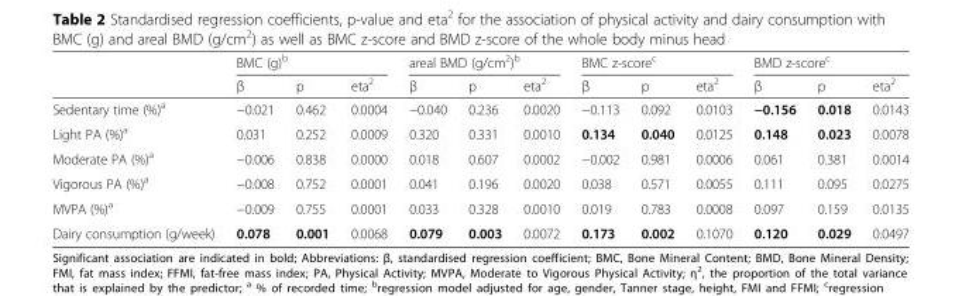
<table><thead><tr><td rowspan="2"></td><td colspan="3">BMC (g)<sup>b</sup></td><td colspan="3">areal BMD (g/cm<sup>2</sup>)<sup>b</sup></td><td colspan="3">BMC z-score<sup>c</sup></td><td colspan="3">BMD z-score<sup>c</sup></td></tr><tr><td>β</td><td>p</td><td>eta<sup>2</sup></td><td>β</td><td>p</td><td>eta<sup>2</sup></td><td>β</td><td>p</td><td>eta<sup>2</sup></td><td>β</td><td>p</td><td>eta<sup>2</sup></td></tr></thead><tbody><tr><td>Sedentary time (%)<sup>a</sup></td><td>−0.021</td><td>0.462</td><td>0.0004</td><td>−0.040</td><td>0.236</td><td>0.0020</td><td>−0.113</td><td>0.092</td><td>0.0103</td><td>−0.156</td><td>0.018</td><td>0.0143</td></tr><tr><td>Light PA (%)<sup>a</sup></td><td>0.031</td><td>0.252</td><td>0.0009</td><td>0.320</td><td>0.331</td><td>0.0010</td><td>0.134</td><td>0.040</td><td>0.0125</td><td>0.148</td><td>0.023</td><td>0.0078</td></tr><tr><td>Moderate PA (%)<sup>a</sup></td><td>−0.006</td><td>0.838</td><td>0.0000</td><td>0.018</td><td>0.607</td><td>0.0002</td><td>−0.002</td><td>0.981</td><td>0.0006</td><td>0.061</td><td>0.381</td><td>0.0014</td></tr><tr><td>Vigorous PA (%)<sup>a</sup></td><td>−0.008</td><td>0.752</td><td>0.0001</td><td>0.041</td><td>0.196</td><td>0.0020</td><td>0.038</td><td>0.571</td><td>0.0055</td><td>0.111</td><td>0.095</td><td>0.0275</td></tr><tr><td>MVPA (%)<sup>a</sup></td><td>−0.009</td><td>0.755</td><td>0.0001</td><td>0.033</td><td>0.328</td><td>0.0010</td><td>0.019</td><td>0.783</td><td>0.0008</td><td>0.097</td><td>0.159</td><td>0.0135</td></tr><tr><td>Dairy consumption (g/week)</td><td>0.078</td><td>0.001</td><td>0.0068</td><td>0.079</td><td>0.003</td><td>0.0072</td><td>0.173</td><td>0.002</td><td>0.1070</td><td>0.120</td><td>0.029</td><td>0.0497</td></tr></tbody></table>